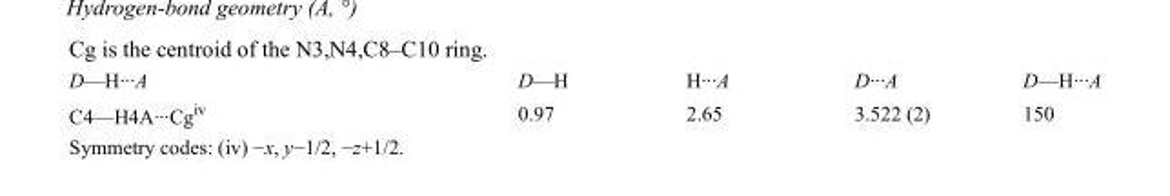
<table><tbody><tr><td>D—H···A</td><td>D—H</td><td>H···A</td><td>D···A</td><td>D—H···A</td></tr><tr><td>C4—H4A···Cg<sup>iv</sup></td><td>0.97</td><td>2.65</td><td>3.522 (2)</td><td>150</td></tr></tbody></table>